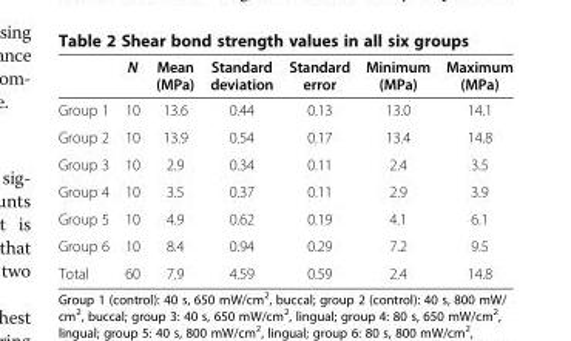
<table><thead><tr><td></td><td>N</td><td>Mean (MPa)</td><td>Standard deviation</td><td>Standard error</td><td>Minimum (MPa)</td><td>Maximum (MPa)</td></tr></thead><tbody><tr><td>Group 1</td><td>10</td><td>13.6</td><td>0.44</td><td>0.13</td><td>13.0</td><td>14.1</td></tr><tr><td>Group 2</td><td>10</td><td>13.9</td><td>0.54</td><td>0.17</td><td>13.4</td><td>14.8</td></tr><tr><td>Group 3</td><td>10</td><td>2.9</td><td>0.34</td><td>0.11</td><td>2.4</td><td>3.5</td></tr><tr><td>Group 4</td><td>10</td><td>3.5</td><td>0.37</td><td>0.11</td><td>2.9</td><td>3.9</td></tr><tr><td>Group 5</td><td>10</td><td>4.9</td><td>0.62</td><td>0.19</td><td>4.1</td><td>6.1</td></tr><tr><td>Group 6</td><td>10</td><td>8.4</td><td>0.94</td><td>0.29</td><td>7.2</td><td>9.5</td></tr><tr><td>Total</td><td>60</td><td>7.9</td><td>4.59</td><td>0.59</td><td>2.4</td><td>14.8</td></tr></tbody></table>